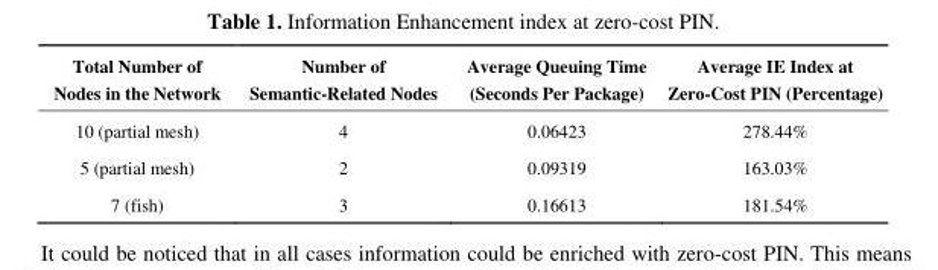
<table><thead><tr><td>Total Number of Nodes in the Network</td><td>Number of Semantic-Related Nodes</td><td>Average Queuing Time (Seconds Per Package)</td><td>Average IE Index at Zero-Cost PIN (Percentage)</td></tr></thead><tbody><tr><td>10 (partial mesh)</td><td>4</td><td>0.06423</td><td>278.44%</td></tr><tr><td>5 (partial mesh)</td><td>2</td><td>0.09319</td><td>163.03%</td></tr><tr><td>7 (fish)</td><td>3</td><td>0.16613</td><td>181.54%</td></tr></tbody></table>